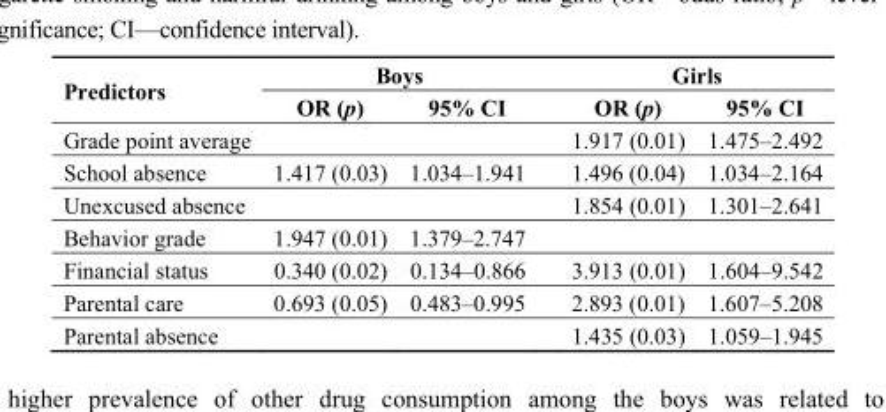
<table><thead><tr><td rowspan="2">Predictors</td><td colspan="2">Boys</td><td colspan="2">Girls</td></tr><tr><td>OR (p)</td><td>95% CI</td><td>OR (p)</td><td>95% CI</td></tr></thead><tbody><tr><td>Grade point average</td><td></td><td></td><td>1.917 (0.01)</td><td>1.475–2.492</td></tr><tr><td>School absence</td><td>1.417 (0.03)</td><td>1.034–1.941</td><td>1.496 (0.04)</td><td>1.034–2.164</td></tr><tr><td>Unexcused absence</td><td></td><td></td><td>1.854 (0.01)</td><td>1.301–2.641</td></tr><tr><td>Behavior grade</td><td>1.947 (0.01)</td><td>1.379–2.747</td><td></td><td></td></tr><tr><td>Financial status</td><td>0.340 (0.02)</td><td>0.134–0.866</td><td>3.913 (0.01)</td><td>1.604–9.542</td></tr><tr><td>Parental care</td><td>0.693 (0.05)</td><td>0.483–0.995</td><td>2.893 (0.01)</td><td>1.607–5.208</td></tr><tr><td>Parental absence</td><td></td><td></td><td>1.435 (0.03)</td><td>1.059–1.945</td></tr></tbody></table>